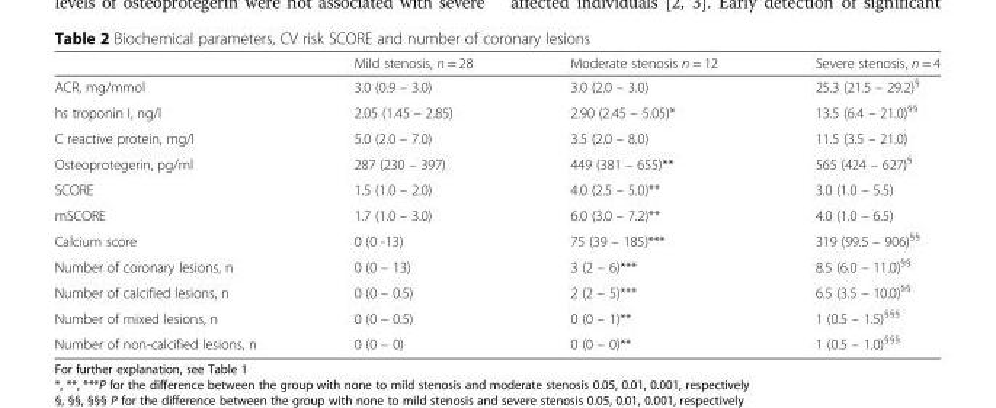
<table><thead><tr><td></td><td>Mild stenosis, n = 28</td><td>Moderate stenosis n = 12</td><td>Severe stenosis, n = 4</td></tr></thead><tbody><tr><td>ACR, mg/mmol</td><td>3.0 (0.9 – 3.0)</td><td>3.0 (2.0 – 3.0)</td><td>25.3 (21.5 – 29.2)<sup>§</sup></td></tr><tr><td>hs troponin I, ng/l</td><td>2.05 (1.45 – 2.85)</td><td>2.90 (2.45 – 5.05)*</td><td>13.5 (6.4 – 21.0)<sup>§§</sup></td></tr><tr><td>C reactive protein, mg/l</td><td>5.0 (2.0 – 7.0)</td><td>3.5 (2.0 – 8.0)</td><td>11.5 (3.5 – 21.0)</td></tr><tr><td>Osteoprotegerin, pg/ml</td><td>287 (230 – 397)</td><td>449 (381 – 655)**</td><td>565 (424 – 627)<sup>§</sup></td></tr><tr><td>SCORE</td><td>1.5 (1.0 – 2.0)</td><td>4.0 (2.5 – 5.0)**</td><td>3.0 (1.0 – 5.5)</td></tr><tr><td>mSCORE</td><td>1.7 (1.0 – 3.0)</td><td>6.0 (3.0 – 7.2)**</td><td>4.0 (1.0 – 6.5)</td></tr><tr><td>Calcium score</td><td>0 (0 -13)</td><td>75 (39 – 185)***</td><td>319 (99.5 – 906)<sup>§§</sup></td></tr><tr><td>Number of coronary lesions, n</td><td>0 (0 – 13)</td><td>3 (2 – 6)***</td><td>8.5 (6.0 – 11.0)<sup>§§</sup></td></tr><tr><td>Number of calcified lesions, n</td><td>0 (0 – 0.5)</td><td>2 (2 – 5)***</td><td>6.5 (3.5 – 10.0)<sup>§§</sup></td></tr><tr><td>Number of mixed lesions, n</td><td>0 (0 – 0.5)</td><td>0 (0 – 1)**</td><td>1 (0.5 – 1.5)<sup>§§§</sup></td></tr><tr><td>Number of non-calcified lesions, n</td><td>0 (0 – 0)</td><td>0 (0 – 0)**</td><td>1 (0.5 – 1.0)<sup>§§§</sup></td></tr></tbody></table>